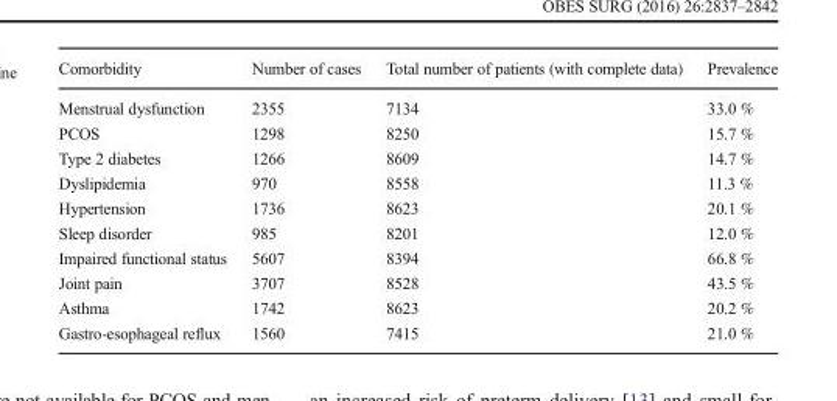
<table><thead><tr><td>Comorbidity</td><td>Number of cases</td><td>Total number of patients (with complete data)</td><td>Prevalence</td></tr></thead><tbody><tr><td>Menstrual dysfunction</td><td>2355</td><td>7134</td><td>33.0 %</td></tr><tr><td>PCOS</td><td>1298</td><td>8250</td><td>15.7 %</td></tr><tr><td>Type 2 diabetes</td><td>1266</td><td>8609</td><td>14.7 %</td></tr><tr><td>Dyslipidemia</td><td>970</td><td>8558</td><td>11.3 %</td></tr><tr><td>Hypertension</td><td>1736</td><td>8623</td><td>20.1 %</td></tr><tr><td>Sleep disorder</td><td>985</td><td>8201</td><td>12.0 %</td></tr><tr><td>Impaired functional status</td><td>5607</td><td>8394</td><td>66.8 %</td></tr><tr><td>Joint pain</td><td>3707</td><td>8528</td><td>43.5 %</td></tr><tr><td>Asthma</td><td>1742</td><td>8623</td><td>20.2 %</td></tr><tr><td>Gastro-esophageal reflux</td><td>1560</td><td>7415</td><td>21.0 %</td></tr></tbody></table>